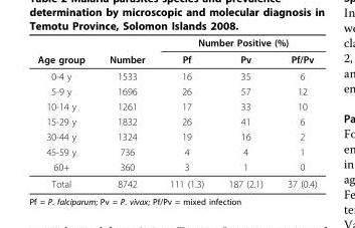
<table><thead><tr><td rowspan="2">Age group</td><td rowspan="2">Number</td><td colspan="3">Number Positive (%)</td></tr><tr><td>Pf</td><td>Pv</td><td>Pf/Pv</td></tr></thead><tbody><tr><td>0-4 y</td><td>1533</td><td>16</td><td>35</td><td>6</td></tr><tr><td>5-9 y</td><td>1696</td><td>26</td><td>57</td><td>12</td></tr><tr><td>10-14 y</td><td>1261</td><td>17</td><td>33</td><td>10</td></tr><tr><td>15-29 y</td><td>1832</td><td>26</td><td>41</td><td>6</td></tr><tr><td>30-44 y</td><td>1324</td><td>19</td><td>16</td><td>2</td></tr><tr><td>45-59 y</td><td>736</td><td>4</td><td>4</td><td>1</td></tr><tr><td>60+</td><td>360</td><td>3</td><td>1</td><td>0</td></tr><tr><td>Total</td><td>8742</td><td>111 (1.3)</td><td>187 (2.1)</td><td>37 (0.4)</td></tr></tbody></table>